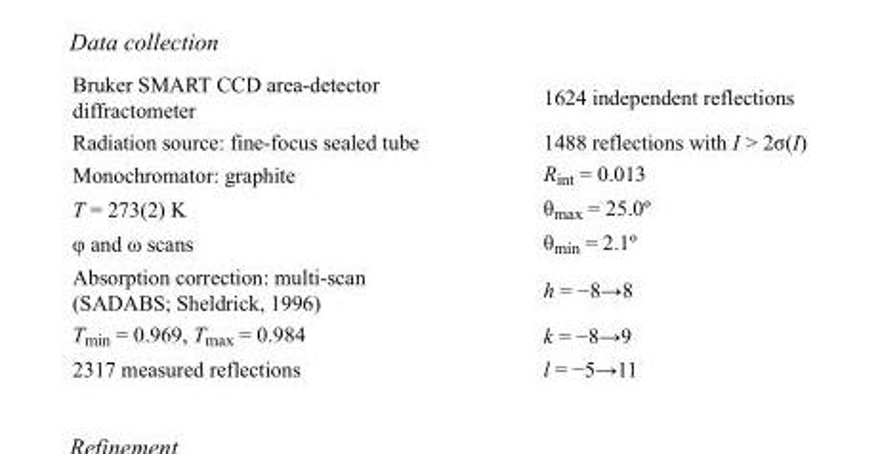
<table><tbody><tr><td>Bruker SMART CCD area-detector diffractometer</td><td>1624 independent reflections</td></tr><tr><td>Radiation source: fine-focus sealed tube</td><td>1488 reflections with I &gt; 2σ(I)</td></tr><tr><td>Monochromator: graphite</td><td>R<sub>int</sub> = 0.013</td></tr><tr><td>T = 273(2) K</td><td>θ<sub>max</sub> = 25.0º</td></tr><tr><td>φ and ω scans</td><td>θ<sub>min</sub> = 2.1º</td></tr><tr><td>Absorption correction: multi-scan (SADABS; Sheldrick, 1996)</td><td>h = −8→8</td></tr><tr><td>T<sub>min</sub> = 0.969, T<sub>max</sub> = 0.984</td><td>k = −8→9</td></tr><tr><td>2317 measured reflections</td><td>l = −5→11</td></tr></tbody></table>